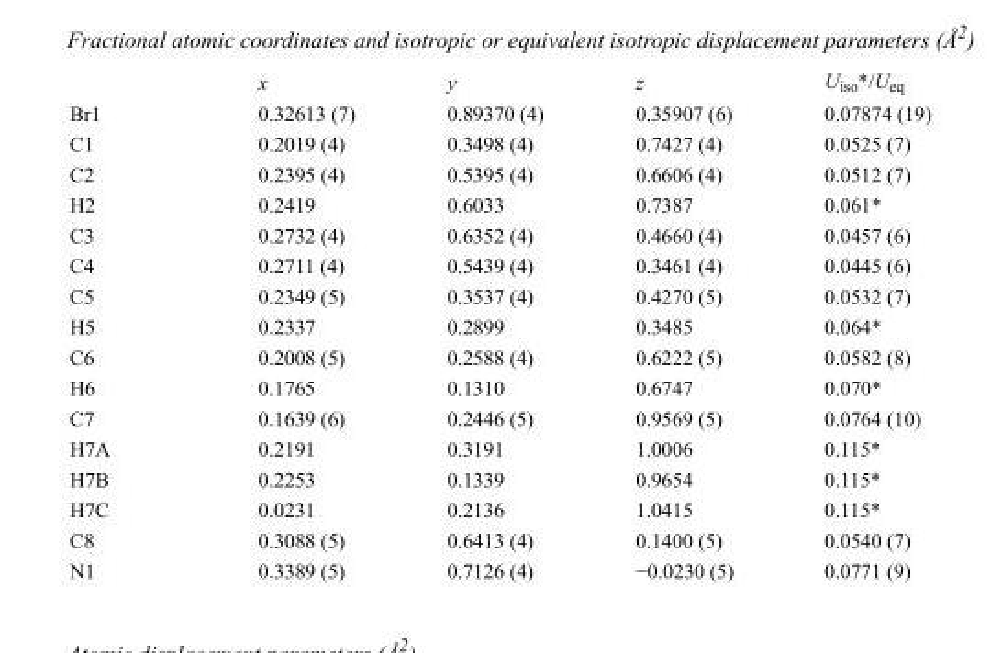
<table><thead><tr><td></td><td>x</td><td>y</td><td>z</td><td>U<sub>iso</sub>*/U<sub>eq</sub></td></tr></thead><tbody><tr><td>Br1</td><td>0.32613 (7)</td><td>0.89370 (4)</td><td>0.35907 (6)</td><td>0.07874 (19)</td></tr><tr><td>C1</td><td>0.2019 (4)</td><td>0.3498 (4)</td><td>0.7427 (4)</td><td>0.0525 (7)</td></tr><tr><td>C2</td><td>0.2395 (4)</td><td>0.5395 (4)</td><td>0.6606 (4)</td><td>0.0512 (7)</td></tr><tr><td>H2</td><td>0.2419</td><td>0.6033</td><td>0.7387</td><td>0.061*</td></tr><tr><td>C3</td><td>0.2732 (4)</td><td>0.6352 (4)</td><td>0.4660 (4)</td><td>0.0457 (6)</td></tr><tr><td>C4</td><td>0.2711 (4)</td><td>0.5439 (4)</td><td>0.3461 (4)</td><td>0.0445 (6)</td></tr><tr><td>C5</td><td>0.2349 (5)</td><td>0.3537 (4)</td><td>0.4270 (5)</td><td>0.0532 (7)</td></tr><tr><td>H5</td><td>0.2337</td><td>0.2899</td><td>0.3485</td><td>0.064*</td></tr><tr><td>C6</td><td>0.2008 (5)</td><td>0.2588 (4)</td><td>0.6222 (5)</td><td>0.0582 (8)</td></tr><tr><td>H6</td><td>0.1765</td><td>0.1310</td><td>0.6747</td><td>0.070*</td></tr><tr><td>C7</td><td>0.1639 (6)</td><td>0.2446 (5)</td><td>0.9569 (5)</td><td>0.0764 (10)</td></tr><tr><td>H7A</td><td>0.2191</td><td>0.3191</td><td>1.0006</td><td>0.115*</td></tr><tr><td>H7B</td><td>0.2253</td><td>0.1339</td><td>0.9654</td><td>0.115*</td></tr><tr><td>H7C</td><td>0.0231</td><td>0.2136</td><td>1.0415</td><td>0.115*</td></tr><tr><td>C8</td><td>0.3088 (5)</td><td>0.6413 (4)</td><td>0.1400 (5)</td><td>0.0540 (7)</td></tr><tr><td>N1</td><td>0.3389 (5)</td><td>0.7126 (4)</td><td>−0.0230 (5)</td><td>0.0771 (9)</td></tr></tbody></table>